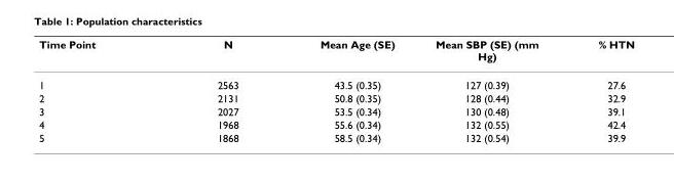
<table><thead><tr><td>Time Point</td><td>N</td><td>Mean Age (SE)</td><td>Mean SBP (SE) (mm Hg)</td><td>% HTN</td></tr></thead><tbody><tr><td>1</td><td>2563</td><td>43.5 (0.35)</td><td>127 (0.39)</td><td>27.6</td></tr><tr><td>2</td><td>2131</td><td>50.8 (0.35)</td><td>128 (0.44)</td><td>32.9</td></tr><tr><td>3</td><td>2027</td><td>53.5 (0.34)</td><td>130 (0.48)</td><td>39.1</td></tr><tr><td>4</td><td>1968</td><td>55.6 (0.34)</td><td>132 (0.55)</td><td>42.4</td></tr><tr><td>5</td><td>1868</td><td>58.5 (0.34)</td><td>132 (0.54)</td><td>39.9</td></tr></tbody></table>